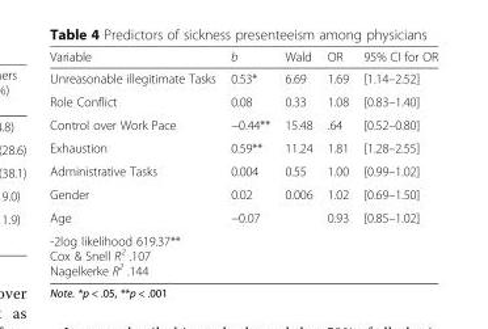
<table><thead><tr><td>Variable</td><td>b</td><td>Wald</td><td>OR</td><td>95% CI for OR</td></tr></thead><tbody><tr><td>Unreasonable illegitimate Tasks</td><td>0.53*</td><td>6.69</td><td>1.69</td><td>[1.14–2.52]</td></tr><tr><td>Role Conflict</td><td>0.08</td><td>0.33</td><td>1.08</td><td>[0.83–1.40]</td></tr><tr><td>Control over Work Pace</td><td>−0.44**</td><td>15.48</td><td>.64</td><td>[0.52–0.80]</td></tr><tr><td>Exhaustion</td><td>0.59**</td><td>11.24</td><td>1.81</td><td>[1.28–2.55]</td></tr><tr><td>Administrative Tasks</td><td>0.004</td><td>0.55</td><td>1.00</td><td>[0.99–1.02]</td></tr><tr><td>Gender</td><td>0.02</td><td>0.006</td><td>1.02</td><td>[0.69–1.50]</td></tr><tr><td>Age</td><td>−0.07</td><td></td><td>0.93</td><td>[0.85–1.02]</td></tr><tr><td colspan="5">-2log likelihood 619.37** Cox &amp; Snell R<sup>2</sup> .107 Nagelkerke R<sup>2</sup> .144</td></tr></tbody></table>